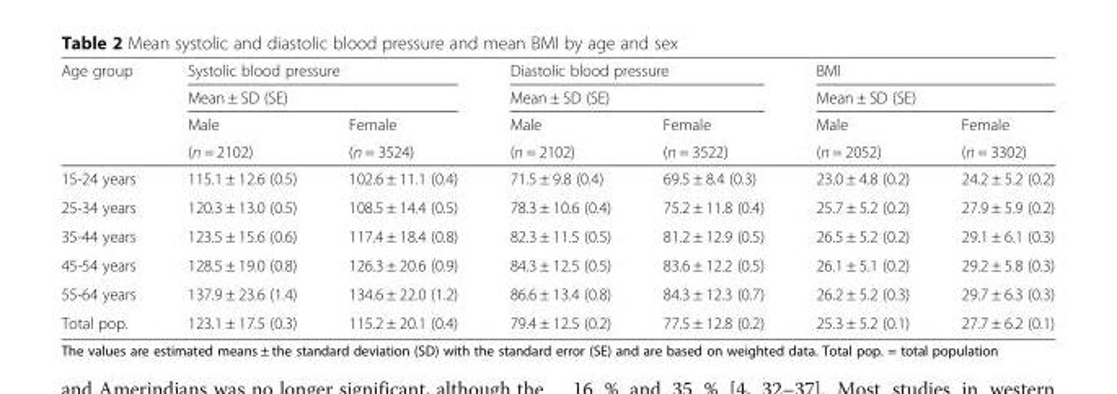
<table><thead><tr><td rowspan="4">Age group</td><td rowspan="2" colspan="2">Systolic blood pressure Mean ± SD (SE)</td><td rowspan="2" colspan="2">Diastolic blood pressure Mean ± SD (SE)</td><td rowspan="2" colspan="2">BMI Mean ± SD (SE)</td></tr><tr></tr><tr><td rowspan="2">Male (n = 2102)</td><td rowspan="2">Female (n = 3524)</td><td rowspan="2">Male (n = 2102)</td><td rowspan="2">Female (n = 3522)</td><td rowspan="2">Male (n = 2052)</td><td rowspan="2">Female (n = 3302)</td></tr><tr></tr></thead><tbody><tr><td>15-24 years</td><td>115.1 ± 12.6 (0.5)</td><td>102.6 ± 11.1 (0.4)</td><td>71.5 ± 9.8 (0.4)</td><td>69.5 ± 8.4 (0.3)</td><td>23.0 ± 4.8 (0.2)</td><td>24.2 ± 5.2 (0.2)</td></tr><tr><td>25-34 years</td><td>120.3 ± 13.0 (0.5)</td><td>108.5 ± 14.4 (0.5)</td><td>78.3 ± 10.6 (0.4)</td><td>75.2 ± 11.8 (0.4)</td><td>25.7 ± 5.2 (0.2)</td><td>27.9 ± 5.9 (0.2)</td></tr><tr><td>35-44 years</td><td>123.5 ± 15.6 (0.6)</td><td>117.4 ± 18.4 (0.8)</td><td>82.3 ± 11.5 (0.5)</td><td>81.2 ± 12.9 (0.5)</td><td>26.5 ± 5.2 (0.2)</td><td>29.1 ± 6.1 (0.3)</td></tr><tr><td>45-54 years</td><td>128.5 ± 19.0 (0.8)</td><td>126.3 ± 20.6 (0.9)</td><td>84.3 ± 12.5 (0.5)</td><td>83.6 ± 12.2 (0.5)</td><td>26.1 ± 5.1 (0.2)</td><td>29.2 ± 5.8 (0.3)</td></tr><tr><td>55-64 years</td><td>137.9 ± 23.6 (1.4)</td><td>134.6 ± 22.0 (1.2)</td><td>86.6 ± 13.4 (0.8)</td><td>84.3 ± 12.3 (0.7)</td><td>26.2 ± 5.2 (0.3)</td><td>29.7 ± 6.3 (0.3)</td></tr><tr><td>Total pop.</td><td>123.1 ± 17.5 (0.3)</td><td>115.2 ± 20.1 (0.4)</td><td>79.4 ± 12.5 (0.2)</td><td>77.5 ± 12.8 (0.2)</td><td>25.3 ± 5.2 (0.1)</td><td>27.7 ± 6.2 (0.1)</td></tr></tbody></table>